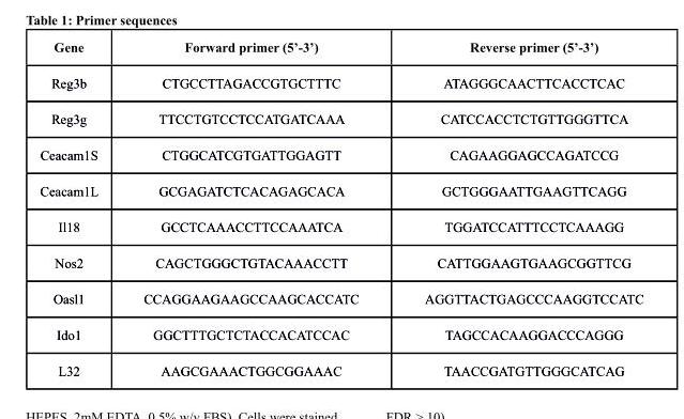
<table><thead><tr><td>Gene</td><td>Forward primer (5’-3’)</td><td>reverse primer (5’-3’)</td></tr></thead><tbody><tr><td>Reg3b</td><td>CTGCCTTAGACCGTGCTTTC</td><td>ATAGGGCAACTTCACCTCAC</td></tr><tr><td>Reg3g</td><td>TTCCTGTCCTCCATGATCAAA</td><td>CATCCACCTCTGTTGGGTTCA</td></tr><tr><td>Ceacam1S</td><td>CTGGCATCGTGATTGGAGTT</td><td>CAGAAGGAGCCAGATCCG</td></tr><tr><td>Ceacam1L</td><td>GCGAGATCTCACAGAGCACA</td><td>GCTGGGAATTGAAGTTCAGG</td></tr><tr><td>Il18</td><td>GCCTCAAACCTTCCAAATCA</td><td>TGGATCCATTTCCTCAAAGG</td></tr><tr><td>Nos2</td><td>CAGCTGGGCTGTACAAACCTT</td><td>CATTGGAAGTGAAGCGGTTCG</td></tr><tr><td>Oasl1</td><td>CCAGGAAGAAGCCAAGCACCATC</td><td>AGGTTACTGAGCCCAAGGTCCATC</td></tr><tr><td>Ido1</td><td>GGCTTTGCTCTACCACATCCAC</td><td>TAGCCACAAGGACCCAGGG</td></tr><tr><td>L32</td><td>AAGCGAAACTGGCGGAAAC</td><td>TAACCGATGTTGGGCATCAG</td></tr></tbody></table>